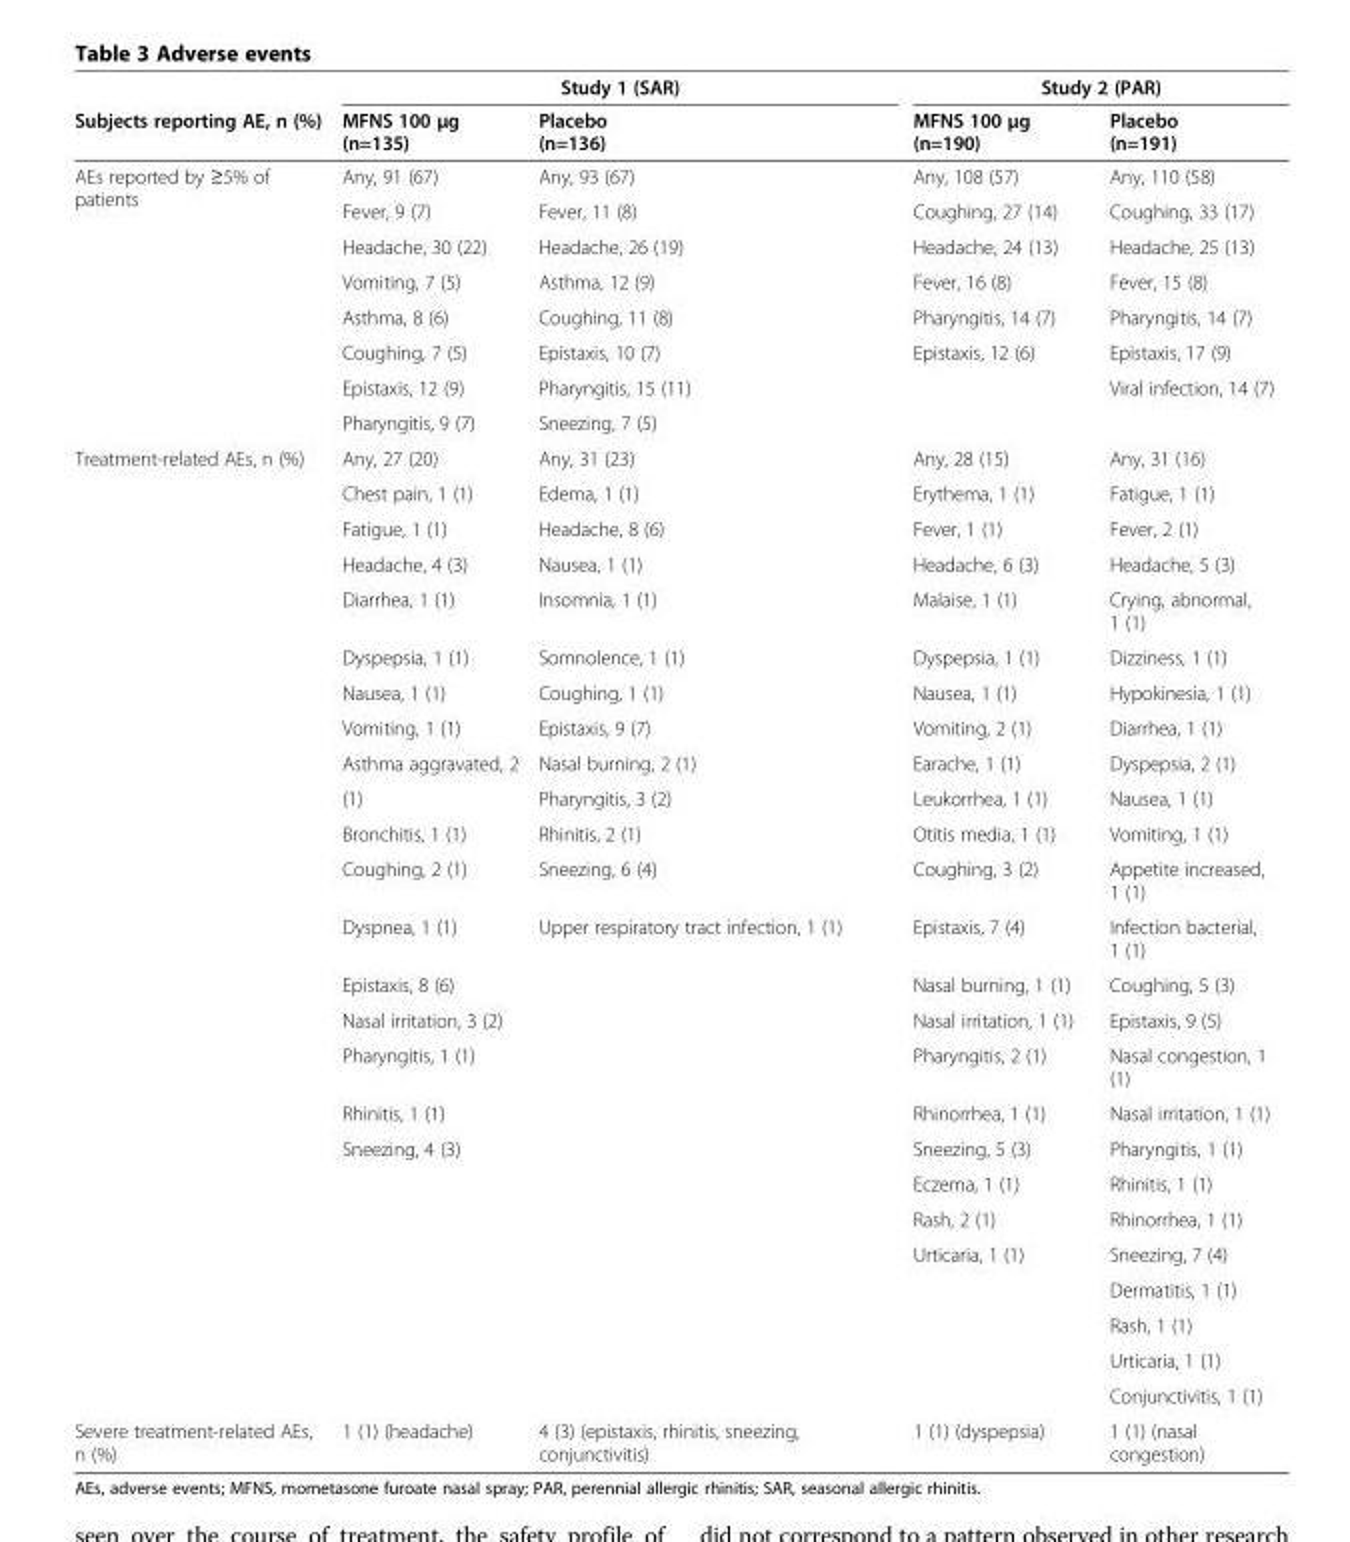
<table><thead><tr><td rowspan="2">Subjects reporting AE, n (%)</td><td colspan="2">Study 1 (SAR)</td><td colspan="2">Study 2 (PAR)</td></tr><tr><td>MFNS 100 μg (n=135)</td><td>Placebo (n=136)</td><td>MFNS 100 μg (n=190)</td><td>Placebo (n=191)</td></tr></thead><tbody><tr><td rowspan="8">AEs reported by ≥5% of patients</td><td>Any, 91 (67)</td><td>Any, 93 (67)</td><td>Any, 108 (57)</td><td>Any, 110 (58)</td></tr><tr><td>Fever, 9 (7)</td><td>Fever, 11 (8)</td><td>Coughing, 27 (14)</td><td>Coughing, 33 (17)</td></tr><tr><td>Headache, 30 (22)</td><td>Headache, 26 (19)</td><td>Headache, 24 (13)</td><td>Headache, 25 (13)</td></tr><tr><td>Vomiting, 7 (5)</td><td>Asthma, 12 (9)</td><td>Fever, 16 (8)</td><td>Fever, 15 (8)</td></tr><tr><td>Asthma, 8 (6)</td><td>Coughing, 11 (8)</td><td>Pharyngitis, 14 (7)</td><td>Pharyngitis, 14 (7)</td></tr><tr><td>Coughing, 7 (5)</td><td>Epistaxis, 10 (7)</td><td>Epistaxis, 12 (6)</td><td>Epistaxis, 17 (9)</td></tr><tr><td>Epistaxis, 12 (9)</td><td>Pharyngitis, 15 (11)</td><td></td><td>Viral infection, 14 (7)</td></tr><tr><td>Pharyngitis, 9 (7)</td><td>Sneezing, 7 (5)</td><td></td><td></td></tr><tr><td rowspan="25">Treatment-related AEs, n (%)</td><td>Any, 27 (20)</td><td>Any, 31 (23)</td><td>Any, 28 (15)</td><td>Any, 31 (16)</td></tr><tr><td>Chest pain, 1 (1)</td><td>Edema, 1 (1)</td><td>Erythema, 1 (1)</td><td>Fatigue, 1 (1)</td></tr><tr><td>Fatigue, 1 (1)</td><td>Headache, 8 (6)</td><td>Fever, 1 (1)</td><td>Fever, 2 (1)</td></tr><tr><td>Headache, 4 (3)</td><td>Nausea, 1 (1)</td><td>Headache, 6 (3)</td><td>Headache, 5 (3)</td></tr><tr><td>Diarrhea, 1 (1)</td><td>Insomnia, 1 (1)</td><td>Malaise, 1 (1)</td><td>Crying, abnormal, 1 (1)</td></tr><tr><td>Dyspepsia, 1 (1)</td><td>Somnolence, 1 (1)</td><td>Dyspepsia, 1 (1)</td><td>Dizziness, 1 (1)</td></tr><tr><td>Nausea, 1 (1)</td><td>Coughing, 1 (1)</td><td>Nausea, 1 (1)</td><td>Hypokinesia, 1 (1)</td></tr><tr><td>Vomiting, 1 (1)</td><td>Epistaxis, 9 (7)</td><td>Vomiting, 2 (1)</td><td>Diarrhea, 1 (1)</td></tr><tr><td>Asthma aggravated, 2</td><td>Nasal burning, 2 (1)</td><td>Earache, 1 (1)</td><td>Dyspepsia, 2 (1)</td></tr><tr><td>(1)</td><td>Pharyngitis, 3 (2)</td><td>Leukorrhea, 1 (1)</td><td>Nausea, 1 (1)</td></tr><tr><td>Bronchitis, 1 (1)</td><td>Rhinitis, 2 (1)</td><td>Otitis media, 1 (1)</td><td>Vomiting, 1 (1)</td></tr><tr><td>Coughing, 2 (1)</td><td>Sneezing, 6 (4)</td><td>Coughing, 3 (2)</td><td>Appetite increased, 1 (1)</td></tr><tr><td>Dyspnea, 1 (1)</td><td>Upper respiratory tract infection, 1 (1)</td><td>Epistaxis, 7 (4)</td><td>Infection bacterial, 1 (1)</td></tr><tr><td>Epistaxis, 8 (6)</td><td></td><td>Nasal burning, 1 (1)</td><td>Coughing, 5 (3)</td></tr><tr><td>Nasal irritation, 3 (2)</td><td></td><td>Nasal irritation, 1 (1)</td><td>Epistaxis, 9 (5)</td></tr><tr><td>Pharyngitis, 1 (1)</td><td></td><td>Pharyngitis, 2 (1)</td><td>Nasal congestion, 1 (1)</td></tr><tr><td>Rhinitis, 1 (1)</td><td></td><td>Rhinorrhea, 1 (1)</td><td>Nasal irritation, 1 (1)</td></tr><tr><td>Sneezing, 4 (3)</td><td></td><td>Sneezing, 5 (3)</td><td>Pharyngitis, 1 (1)</td></tr><tr><td></td><td></td><td>Eczema, 1 (1)</td><td>Rhinitis, 1 (1)</td></tr><tr><td></td><td></td><td>Rash, 2 (1)</td><td>Rhinorrhea, 1 (1)</td></tr><tr><td></td><td></td><td>Urticaria, 1 (1)</td><td>Sneezing, 7 (4)</td></tr><tr><td></td><td></td><td></td><td>Dermatitis, 1 (1)</td></tr><tr><td></td><td></td><td></td><td>Rash, 1 (1)</td></tr><tr><td></td><td></td><td></td><td>Urticaria, 1 (1)</td></tr><tr><td></td><td></td><td></td><td>Conjunctivitis, 1 (1)</td></tr><tr><td>Severe treatment-related AEs, n (%)</td><td>1 (1) (headache)</td><td>4 (3) (epistaxis, rhinitis, sneezing, conjunctivitis)</td><td>1 (1) (dyspepsia)</td><td>1 (1) (nasal congestion)</td></tr></tbody></table>